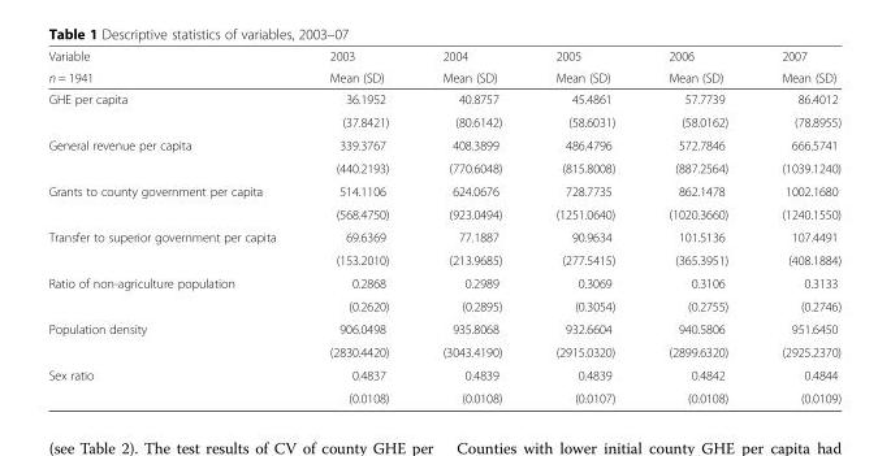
<table><thead><tr><td rowspan="2">Variable n = 1941</td><td rowspan="2">2003 Mean (SD)</td><td rowspan="2">2004 Mean (SD)</td><td rowspan="2">2005 Mean (SD)</td><td rowspan="2">2006 Mean (SD)</td><td rowspan="2">2007 Mean (SD)</td></tr><tr></tr></thead><tbody><tr><td rowspan="2">GHE per capita</td><td>36.1952</td><td>40.8757</td><td>45.4861</td><td>57.7739</td><td>86.4012</td></tr><tr><td>(37.8421)</td><td>(80.6142)</td><td>(58.6031)</td><td>(58.0162)</td><td>(78.8955)</td></tr><tr><td rowspan="2">General revenue per capita</td><td>339.3767</td><td>408.3899</td><td>486.4796</td><td>572.7846</td><td>666.5741</td></tr><tr><td>(440.2193)</td><td>(770.6048)</td><td>(815.8008)</td><td>(887.2564)</td><td>(1039.1240)</td></tr><tr><td rowspan="2">Grants to county government per capita</td><td>514.1106</td><td>624.0676</td><td>728.7735</td><td>862.1478</td><td>1002.1680</td></tr><tr><td>(568.4750)</td><td>(923.0494)</td><td>(1251.0640)</td><td>(1020.3660)</td><td>(1240.1550)</td></tr><tr><td rowspan="2">Transfer to superior government per capita</td><td>69.6369</td><td>77.1887</td><td>90.9634</td><td>101.5136</td><td>107.4491</td></tr><tr><td>(153.2010)</td><td>(213.9685)</td><td>(277.5415)</td><td>(365.3951)</td><td>(408.1884)</td></tr><tr><td rowspan="2">Ratio of non-agriculture population</td><td>0.2868</td><td>0.2989</td><td>0.3069</td><td>0.3106</td><td>0.3133</td></tr><tr><td>(0.2620)</td><td>(0.2895)</td><td>(0.3054)</td><td>(0.2755)</td><td>(0.2746)</td></tr><tr><td rowspan="2">Population density</td><td>906.0498</td><td>935.8068</td><td>932.6604</td><td>940.5806</td><td>951.6450</td></tr><tr><td>(2830.4420)</td><td>(3043.4190)</td><td>(2915.0320)</td><td>(2899.6320)</td><td>(2925.2370)</td></tr><tr><td rowspan="2">Sex ratio</td><td>0.4837</td><td>0.4839</td><td>0.4839</td><td>0.4842</td><td>0.4844</td></tr><tr><td>(0.0108)</td><td>(0.0108)</td><td>(0.0107)</td><td>(0.0108)</td><td>(0.0109)</td></tr></tbody></table>